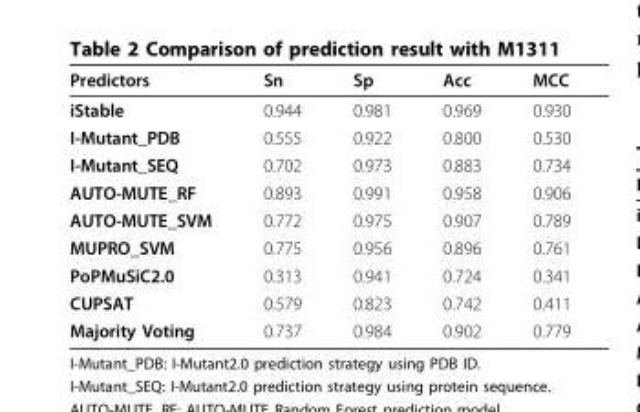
<table><thead><tr><td>Predictors</td><td>Sn</td><td>Sp</td><td>Acc</td><td>MCC</td></tr></thead><tbody><tr><td>iStable</td><td>0.944</td><td>0.981</td><td>0.969</td><td>0.930</td></tr><tr><td>I-Mutant_PDB</td><td>0.555</td><td>0.922</td><td>0.800</td><td>0.530</td></tr><tr><td>I-Mutant_SEQ</td><td>0.702</td><td>0.973</td><td>0.883</td><td>0.734</td></tr><tr><td>AUTO-MUTE_RF</td><td>0.893</td><td>0.991</td><td>0.958</td><td>0.906</td></tr><tr><td>AUTO-MUTE_SVM</td><td>0.772</td><td>0.975</td><td>0.907</td><td>0.789</td></tr><tr><td>MUPRO_SVM</td><td>0.775</td><td>0.956</td><td>0.896</td><td>0.761</td></tr><tr><td>PoPMuSiC2.0</td><td>0.313</td><td>0.941</td><td>0.724</td><td>0.341</td></tr><tr><td>CUPSAT</td><td>0.579</td><td>0.823</td><td>0.742</td><td>0.411</td></tr><tr><td>Majority Voting</td><td>0.737</td><td>0.984</td><td>0.902</td><td>0.779</td></tr></tbody></table>